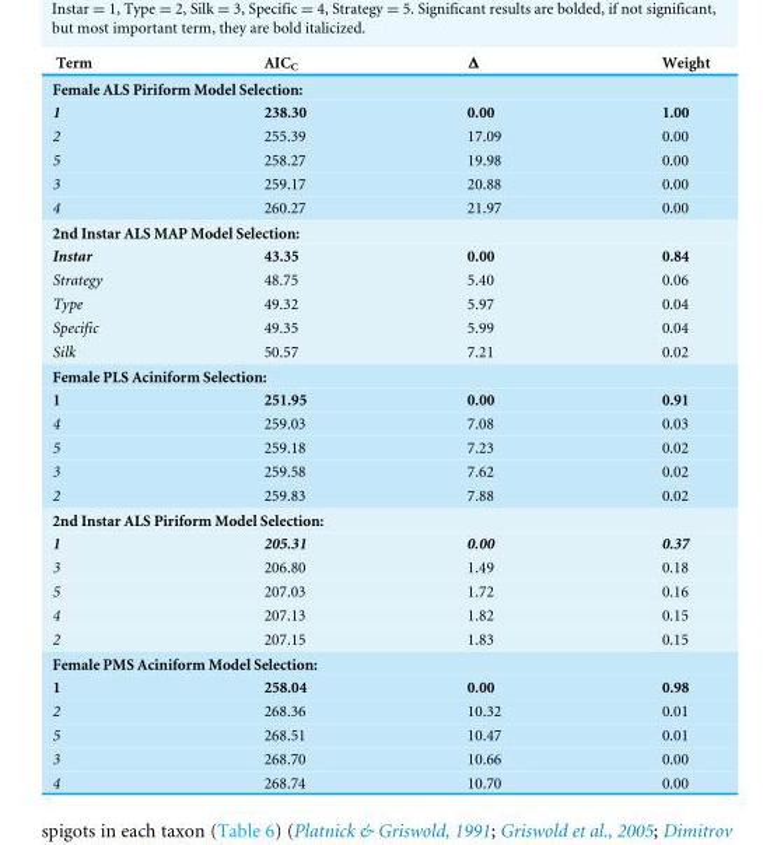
<table><thead><tr><td>Term</td><td>AIC<sub>C</sub></td><td>Δ</td><td>Weight</td></tr></thead><tbody><tr><td colspan="4">Female ALS Piriform Model Selection:</td></tr><tr><td>1</td><td>238.30</td><td>0.00</td><td>1.00</td></tr><tr><td>2</td><td>255.39</td><td>17.09</td><td>0.00</td></tr><tr><td>5</td><td>258.27</td><td>19.98</td><td>0.00</td></tr><tr><td>3</td><td>259.17</td><td>20.88</td><td>0.00</td></tr><tr><td>4</td><td>260.27</td><td>21.97</td><td>0.00</td></tr><tr><td colspan="4">2nd Instar ALS MAP Model Selection:</td></tr><tr><td>Instar</td><td>43.35</td><td>0.00</td><td>0.84</td></tr><tr><td>Strategy</td><td>48.75</td><td>5.40</td><td>0.06</td></tr><tr><td>Type</td><td>49.32</td><td>5.97</td><td>0.04</td></tr><tr><td>Specific</td><td>49.35</td><td>5.99</td><td>0.04</td></tr><tr><td>Silk</td><td>50.57</td><td>7.21</td><td>0.02</td></tr><tr><td colspan="4">Female PLS Aciniform Selection:</td></tr><tr><td>1</td><td>251.95</td><td>0.00</td><td>0.91</td></tr><tr><td>4</td><td>259.03</td><td>7.08</td><td>0.03</td></tr><tr><td>5</td><td>259.18</td><td>7.23</td><td>0.02</td></tr><tr><td>3</td><td>259.58</td><td>7.62</td><td>0.02</td></tr><tr><td>2</td><td>259.83</td><td>7.88</td><td>0.02</td></tr><tr><td colspan="4">2nd Instar ALS Piriform Model Selection:</td></tr><tr><td>1</td><td>205.31</td><td>0.00</td><td>0.37</td></tr><tr><td>3</td><td>206.80</td><td>1.49</td><td>0.18</td></tr><tr><td>5</td><td>207.03</td><td>1.72</td><td>0.16</td></tr><tr><td>4</td><td>207.13</td><td>1.82</td><td>0.15</td></tr><tr><td>2</td><td>207.15</td><td>1.83</td><td>0.15</td></tr><tr><td colspan="4">Female PMS Aciniform Model Selection:</td></tr><tr><td>1</td><td>258.04</td><td>0.00</td><td>0.98</td></tr><tr><td>2</td><td>268.36</td><td>10.32</td><td>0.01</td></tr><tr><td>5</td><td>268.51</td><td>10.47</td><td>0.01</td></tr><tr><td>3</td><td>268.70</td><td>10.66</td><td>0.00</td></tr><tr><td>4</td><td>268.74</td><td>10.70</td><td>0.00</td></tr></tbody></table>